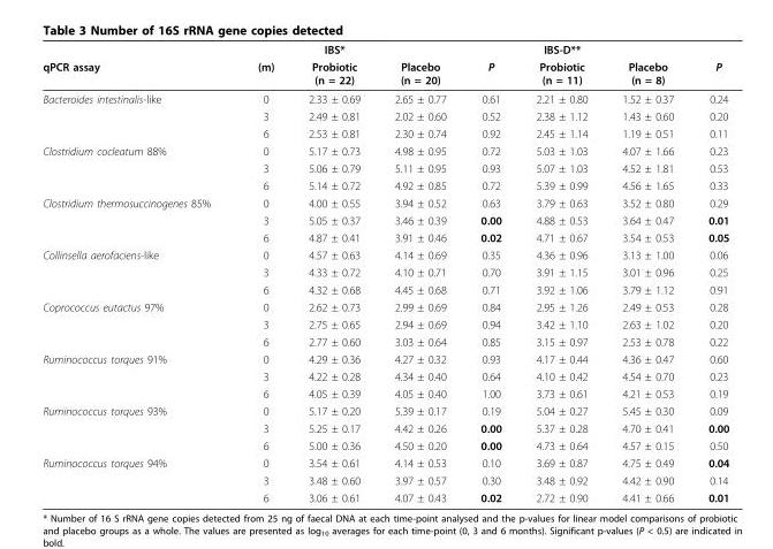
<table><thead><tr><td rowspan="2">qPCR assay</td><td rowspan="2">(m)</td><td rowspan="2">IBS* Probiotic (n = 22)</td><td rowspan="2">Placebo (n = 20)</td><td rowspan="2">P</td><td rowspan="2">IBS-D** Probiotic (n = 11)</td><td rowspan="2">Placebo (n = 8)</td><td rowspan="2">P</td></tr><tr></tr></thead><tbody><tr><td rowspan="3">Bacteroides intestinalis-like</td><td>0</td><td>2.33 ± 0.69</td><td>2.65 ± 0.77</td><td>0.61</td><td>2.21 ± 0.80</td><td>1.52 ± 0.37</td><td>0.24</td></tr><tr><td>3</td><td>2.49 ± 0.81</td><td>2.02 ± 0.60</td><td>0.52</td><td>2.38 ± 1.12</td><td>1.43 ± 0.60</td><td>0.20</td></tr><tr><td>6</td><td>2.53 ± 0.81</td><td>2.30 ± 0.74</td><td>0.92</td><td>2.45 ± 1.14</td><td>1.19 ± 0.51</td><td>0.11</td></tr><tr><td rowspan="3">Clostridium cocleatum 88%</td><td>0</td><td>5.17 ± 0.73</td><td>4.98 ± 0.95</td><td>0.72</td><td>5.03 ± 1.03</td><td>4.07 ± 1.66</td><td>0.23</td></tr><tr><td>3</td><td>5.06 ± 0.79</td><td>5.11 ± 0.95</td><td>0.93</td><td>5.07 ± 1.03</td><td>4.52 ± 1.81</td><td>0.53</td></tr><tr><td>6</td><td>5.14 ± 0.72</td><td>4.92 ± 0.85</td><td>0.72</td><td>5.39 ± 0.99</td><td>4.56 ± 1.65</td><td>0.33</td></tr><tr><td rowspan="3">Clostridium thermosuccinogenes 85%</td><td>0</td><td>4.00 ± 0.55</td><td>3.94 ± 0.52</td><td>0.63</td><td>3.79 ± 0.63</td><td>3.52 ± 0.80</td><td>0.29</td></tr><tr><td>3</td><td>5.05 ± 0.37</td><td>3.46 ± 0.39</td><td>0.00</td><td>4.88 ± 0.53</td><td>3.64 ± 0.47</td><td>0.01</td></tr><tr><td>6</td><td>4.87 ± 0.41</td><td>3.91 ± 0.46</td><td>0.02</td><td>4.71 ± 0.67</td><td>3.54 ± 0.53</td><td>0.05</td></tr><tr><td rowspan="3">Collinsella aerofaciens-like</td><td>0</td><td>4.57 ± 0.63</td><td>4.14 ± 0.69</td><td>0.35</td><td>4.36 ± 0.96</td><td>3.13 ± 1.00</td><td>0.06</td></tr><tr><td>3</td><td>4.33 ± 0.72</td><td>4.10 ± 0.71</td><td>0.70</td><td>3.91 ± 1.15</td><td>3.01 ± 0.96</td><td>0.25</td></tr><tr><td>6</td><td>4.32 ± 0.68</td><td>4.45 ± 0.68</td><td>0.71</td><td>3.92 ± 1.06</td><td>3.79 ± 1.12</td><td>0.91</td></tr><tr><td rowspan="3">Coprococcus eutactus 97%</td><td>0</td><td>2.62 ± 0.73</td><td>2.99 ± 0.69</td><td>0.84</td><td>2.95 ± 1.26</td><td>2.49 ± 0.53</td><td>0.28</td></tr><tr><td>3</td><td>2.75 ± 0.65</td><td>2.94 ± 0.69</td><td>0.94</td><td>3.42 ± 1.10</td><td>2.63 ± 1.02</td><td>0.20</td></tr><tr><td>6</td><td>2.77 ± 0.60</td><td>3.03 ± 0.64</td><td>0.85</td><td>3.15 ± 0.97</td><td>2.53 ± 0.78</td><td>0.22</td></tr><tr><td rowspan="3">Ruminococcus torques 91%</td><td>0</td><td>4.29 ± 0.36</td><td>4.27 ± 0.32</td><td>0.93</td><td>4.17 ± 0.44</td><td>4.36 ± 0.47</td><td>0.60</td></tr><tr><td>3</td><td>4.22 ± 0.28</td><td>4.34 ± 0.40</td><td>0.64</td><td>4.10 ± 0.42</td><td>4.54 ± 0.70</td><td>0.23</td></tr><tr><td>6</td><td>4.05 ± 0.39</td><td>4.05 ± 0.40</td><td>1.00</td><td>3.73 ± 0.61</td><td>4.21 ± 0.53</td><td>0.19</td></tr><tr><td rowspan="3">Ruminococcus torques 93%</td><td>0</td><td>5.17 ± 0.20</td><td>5.39 ± 0.17</td><td>0.19</td><td>5.04 ± 0.27</td><td>5.45 ± 0.30</td><td>0.09</td></tr><tr><td>3</td><td>5.25 ± 0.17</td><td>4.42 ± 0.26</td><td>0.00</td><td>5.37 ± 0.28</td><td>4.70 ± 0.41</td><td>0.00</td></tr><tr><td>6</td><td>5.00 ± 0.36</td><td>4.50 ± 0.20</td><td>0.00</td><td>4.73 ± 0.64</td><td>4.57 ± 0.15</td><td>0.50</td></tr><tr><td rowspan="3">Ruminococcus torques 94%</td><td>0</td><td>3.54 ± 0.61</td><td>4.14 ± 0.53</td><td>0.10</td><td>3.69 ± 0.87</td><td>4.75 ± 0.49</td><td>0.04</td></tr><tr><td>3</td><td>3.48 ± 0.60</td><td>3.97 ± 0.57</td><td>0.30</td><td>3.48 ± 0.92</td><td>4.42 ± 0.90</td><td>0.14</td></tr><tr><td>6</td><td>3.06 ± 0.61</td><td>4.07 ± 0.43</td><td>0.02</td><td>2.72 ± 0.90</td><td>4.41 ± 0.66</td><td>0.01</td></tr></tbody></table>